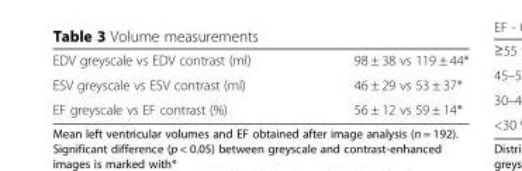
<table><tbody><tr><td>EDV greyscale vs EDV contrast (ml)</td><td>98 ± 38 vs 119 ± 44*</td></tr><tr><td>ESV greyscale vs ESV contrast (ml)</td><td>46 ± 29 vs 53 ± 37*</td></tr><tr><td>EF greyscale vs EF contrast (%)</td><td>56 ± 12 vs 59 ± 14*</td></tr></tbody></table>